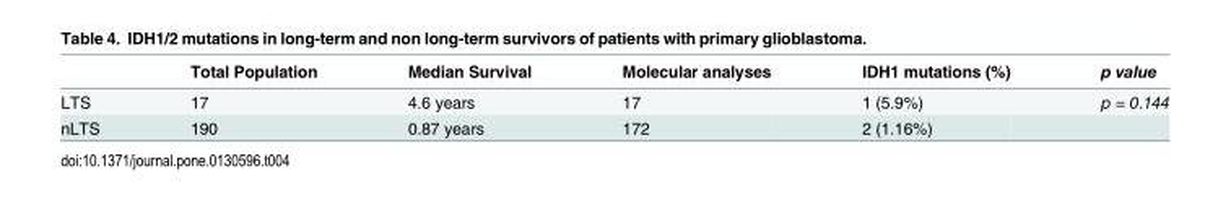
<table><thead><tr><td></td><td>Total Population</td><td>Median Survival</td><td>Molecular analyses</td><td>IDH1 mutations (%)</td><td>p value</td></tr></thead><tbody><tr><td>LTS</td><td>17</td><td>4.6 years</td><td>17</td><td>1 (5.9%)</td><td>p = 0.144</td></tr><tr><td>nLTS</td><td>190</td><td>0.87 years</td><td>172</td><td>2 (1.16%)</td><td></td></tr></tbody></table>